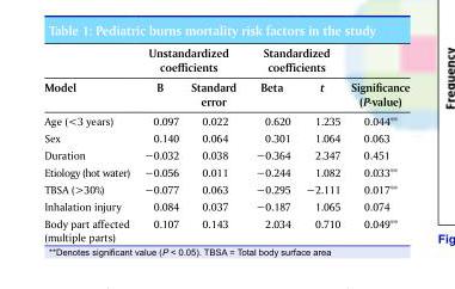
<table><thead><tr><td rowspan="2">Model</td><td colspan="2">Unstandardized coefficients</td><td colspan="2">Standardized coefficients</td><td rowspan="2">Significance (P-value)</td></tr><tr><td>B</td><td>Standard error</td><td>Beta</td><td>t</td></tr></thead><tbody><tr><td>Age (&lt;3 years)</td><td>0.097</td><td>0.022</td><td>0.620</td><td>1.235</td><td>0.044**</td></tr><tr><td>Sex</td><td>0.140</td><td>0.064</td><td>0.301</td><td>1.064</td><td>0.063</td></tr><tr><td>Duration</td><td>−0.032</td><td>0.038</td><td>−0.364</td><td>2.347</td><td>0.451</td></tr><tr><td>Etiology (hot water)</td><td>−0.056</td><td>0.011</td><td>−0.244</td><td>1.082</td><td>0.033**</td></tr><tr><td>TBSA (&gt;30%)</td><td>−0.077</td><td>0.063</td><td>−0.295</td><td>−2.111</td><td>0.017**</td></tr><tr><td>Inhalation injury</td><td>0.084</td><td>0.037</td><td>−0.187</td><td>1.065</td><td>0.074</td></tr><tr><td>Body part affected (multiple parts)</td><td>0.107</td><td>0.143</td><td>2.034</td><td>0.710</td><td>0.049**</td></tr></tbody></table>